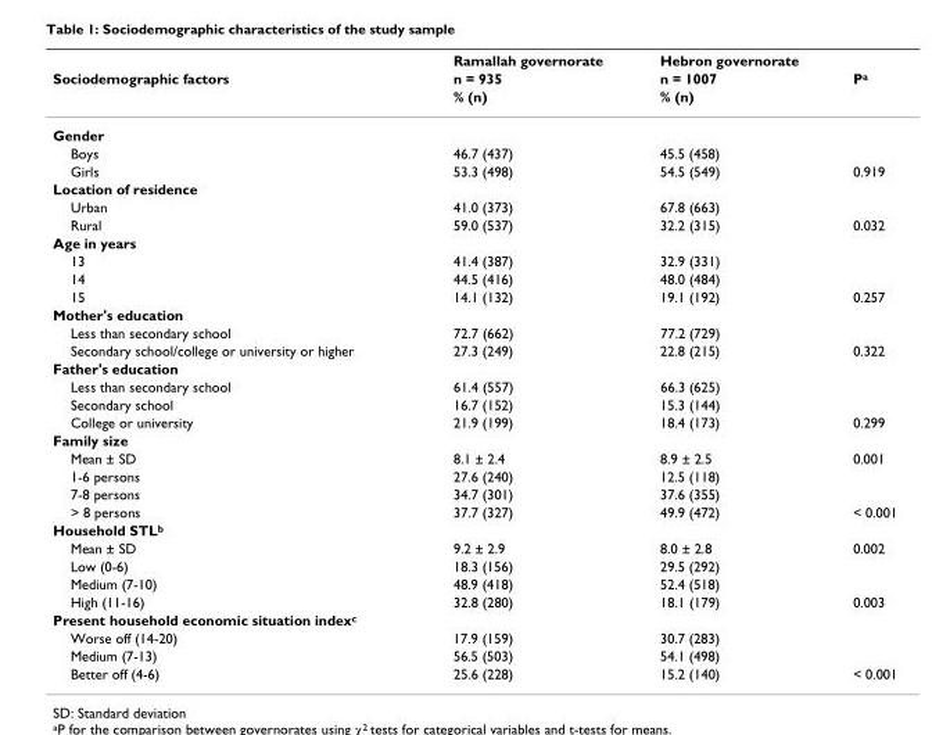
<table><thead><tr><td rowspan="3">Sociodemographic factors</td><td rowspan="3">Ramallah governorate n = 935 % (n)</td><td rowspan="3">Hebron governorate n = 1007 % (n)</td><td rowspan="3">P<sup>a</sup></td></tr><tr></tr><tr></tr></thead><tbody><tr><td colspan="4">Gender</td></tr><tr><td>Boys</td><td>46.7 (437)</td><td>45.5 (458)</td><td></td></tr><tr><td>Girls</td><td>53.3 (498)</td><td>54.5 (549)</td><td>0.919</td></tr><tr><td colspan="4">Location of residence</td></tr><tr><td>Urban</td><td>41.0 (373)</td><td>67.8 (663)</td><td></td></tr><tr><td>Rural</td><td>59.0 (537)</td><td>32.2 (315)</td><td>0.032</td></tr><tr><td colspan="4">Age in years</td></tr><tr><td>13</td><td>41.4 (387)</td><td>32.9 (331)</td><td></td></tr><tr><td>14</td><td>44.5 (416)</td><td>48.0 (484)</td><td></td></tr><tr><td>15</td><td>14.1 (132)</td><td>19.1 (192)</td><td>0.257</td></tr><tr><td colspan="4">Mother&#x27;s education</td></tr><tr><td>Less than secondary school</td><td>72.7 (662)</td><td>77.2 (729)</td><td></td></tr><tr><td>Secondary school/college or university or higher</td><td>27.3 (249)</td><td>22.8 (215)</td><td>0.322</td></tr><tr><td colspan="4">Father&#x27;s education</td></tr><tr><td>Less than secondary school</td><td>61.4 (557)</td><td>66.3 (625)</td><td></td></tr><tr><td>Secondary school</td><td>16.7 (152)</td><td>15.3 (144)</td><td></td></tr><tr><td>College or university</td><td>21.9 (199)</td><td>18.4 (173)</td><td>0.299</td></tr><tr><td colspan="4">Family size</td></tr><tr><td>Mean ± SD</td><td>8.1 ± 2.4</td><td>8.9 ± 2.5</td><td>0.001</td></tr><tr><td>1-6 persons</td><td>27.6 (240)</td><td>12.5 (118)</td><td></td></tr><tr><td>7-8 persons</td><td>34.7 (301)</td><td>37.6 (355)</td><td></td></tr><tr><td>&gt; 8 persons</td><td>37.7 (327)</td><td>49.9 (472)</td><td>&lt; 0.001</td></tr><tr><td colspan="4">Household STL<sup>b</sup></td></tr><tr><td>Mean ± SD</td><td>9.2 ± 2.9</td><td>8.0 ± 2.8</td><td>0.002</td></tr><tr><td>Low (0-6)</td><td>18.3 (156)</td><td>29.5 (292)</td><td></td></tr><tr><td>Medium (7-10)</td><td>48.9 (418)</td><td>52.4 (518)</td><td></td></tr><tr><td>High (11-16)</td><td>32.8 (280)</td><td>18.1 (179)</td><td>0.003</td></tr><tr><td colspan="4">Present household economic situation index<sup>c</sup></td></tr><tr><td>Worse off (14-20)</td><td>17.9 (159)</td><td>30.7 (283)</td><td></td></tr><tr><td>Medium (7-13)</td><td>56.5 (503)</td><td>54.1 (498)</td><td></td></tr><tr><td>Better off (4-6)</td><td>25.6 (228)</td><td>15.2 (140)</td><td>&lt; 0.001</td></tr></tbody></table>